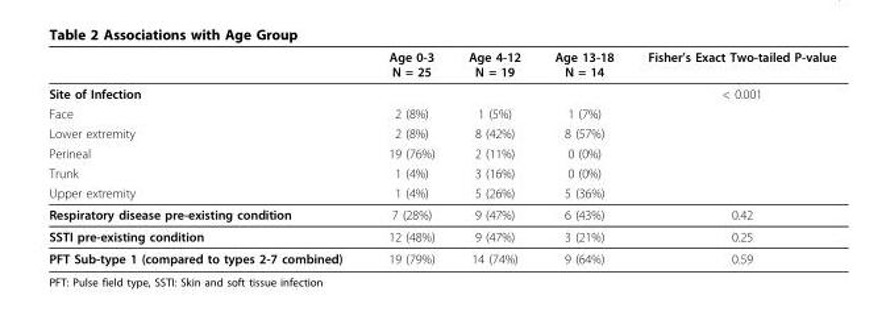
<table><thead><tr><td></td><td>Age 0-3 N = 25</td><td>Age 4-12 N = 19</td><td>Age 13-18 N = 14</td><td>Fisher’s Exact Two-tailed P-value</td></tr></thead><tbody><tr><td>Site of Infection</td><td></td><td></td><td></td><td>&lt; 0.001</td></tr><tr><td>Face</td><td>2 (8%)</td><td>1 (5%)</td><td>1 (7%)</td><td></td></tr><tr><td>Lower extremity</td><td>2 (8%)</td><td>8 (42%)</td><td>8 (57%)</td><td></td></tr><tr><td>Perineal</td><td>19 (76%)</td><td>2 (11%)</td><td>0 (0%)</td><td></td></tr><tr><td>Trunk</td><td>1 (4%)</td><td>3 (16%)</td><td>0 (0%)</td><td></td></tr><tr><td>Upper extremity</td><td>1 (4%)</td><td>5 (26%)</td><td>5 (36%)</td><td></td></tr><tr><td>Respiratory disease pre-existing condition</td><td>7 (28%)</td><td>9 (47%)</td><td>6 (43%)</td><td>0.42</td></tr><tr><td>SSTI pre-existing condition</td><td>12 (48%)</td><td>9 (47%)</td><td>3 (21%)</td><td>0.25</td></tr><tr><td>PFT Sub-type 1 (compared to types 2-7 combined)</td><td>19 (79%)</td><td>14 (74%)</td><td>9 (64%)</td><td>0.59</td></tr></tbody></table>